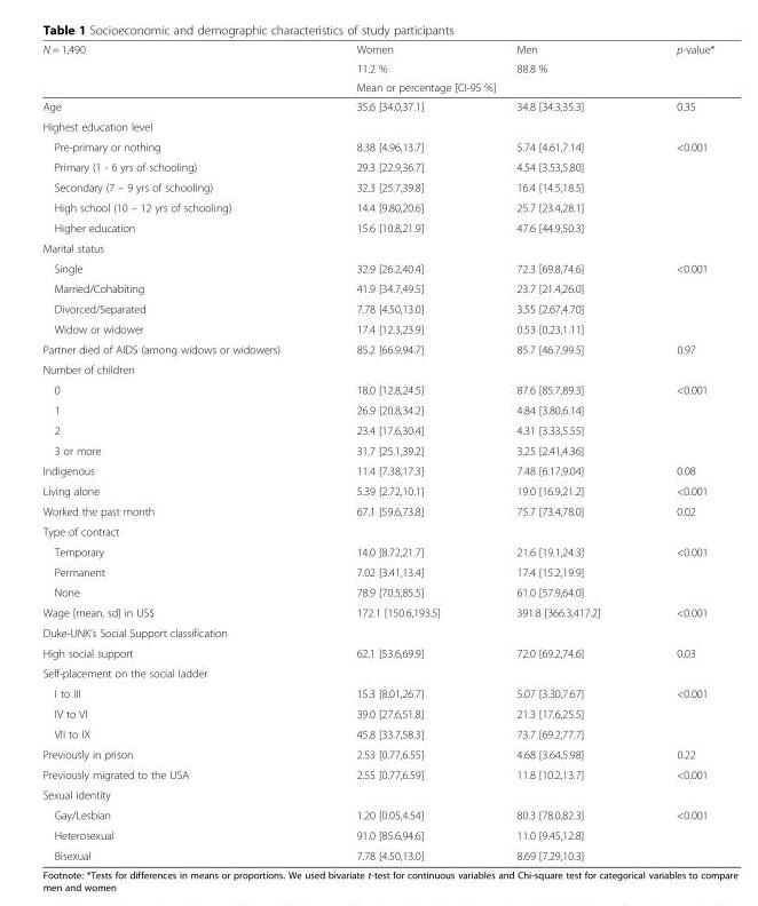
<table><thead><tr><td rowspan="3">N = 1,490</td><td rowspan="2">Women 11.2 %</td><td rowspan="2">Men 88.8 %</td><td rowspan="3">p-value*</td></tr><tr></tr><tr><td colspan="2">Mean or percentage [CI-95 %]</td></tr></thead><tbody><tr><td>Age</td><td>35.6 [34.0,37.1]</td><td>34.8 [34.3,35.3]</td><td>0.35</td></tr><tr><td colspan="4">Highest education level</td></tr><tr><td>Pre-primary or nothing</td><td>8.38 [4.96,13.7]</td><td>5.74 [4.61,7.14]</td><td>&lt;0.001</td></tr><tr><td>Primary (1 - 6 yrs of schooling)</td><td>29.3 [22.9,36.7]</td><td>4.54 [3.53,5.80]</td><td></td></tr><tr><td>Secondary (7 – 9 yrs of schooling)</td><td>32.3 [25.7,39.8]</td><td>16.4 [14.5,18.5]</td><td></td></tr><tr><td>High school (10 – 12 yrs of schooling)</td><td>14.4 [9.80,20.6]</td><td>25.7 [23.4,28.1]</td><td></td></tr><tr><td>Higher education</td><td>15.6 [10.8,21.9]</td><td>47.6 [44.9,50.3]</td><td></td></tr><tr><td colspan="4">Marital status</td></tr><tr><td>Single</td><td>32.9 [26.2,40.4]</td><td>72.3 [69.8,74.6]</td><td>&lt;0.001</td></tr><tr><td>Married/Cohabiting</td><td>41.9 [34.7,49.5]</td><td>23.7 [21.4,26.0]</td><td></td></tr><tr><td>Divorced/Separated</td><td>7.78 [4.50,13.0]</td><td>3.55 [2.67,4.70]</td><td></td></tr><tr><td>Widow or widower</td><td>17.4 [12.3,23.9]</td><td>0.53 [0.23,1.11]</td><td></td></tr><tr><td>Partner died of AIDS (among widows or widowers)</td><td>85.2 [66.9,94.7]</td><td>85.7 [46.7,99.5]</td><td>0.97</td></tr><tr><td colspan="4">Number of children</td></tr><tr><td>0</td><td>18.0 [12.8,24.5]</td><td>87.6 [85.7,89.3]</td><td>&lt;0.001</td></tr><tr><td>1</td><td>26.9 [20.8,34.2]</td><td>4.84 [3.80,6.14]</td><td></td></tr><tr><td>2</td><td>23.4 [17.6,30.4]</td><td>4.31 [3.33,5.55]</td><td></td></tr><tr><td>3 or more</td><td>31.7 [25.1,39.2]</td><td>3.25 [2.41,4.36]</td><td></td></tr><tr><td>Indigenous</td><td>11.4 [7.38,17.3]</td><td>7.48 [6.17,9.04]</td><td>0.08</td></tr><tr><td>Living alone</td><td>5.39 [2.72,10.1]</td><td>19.0 [16.9,21.2]</td><td>&lt;0.001</td></tr><tr><td>Worked the past month</td><td>67.1 [59.6,73.8]</td><td>75.7 [73.4,78.0]</td><td>0.02</td></tr><tr><td colspan="4">Type of contract</td></tr><tr><td>Temporary</td><td>14.0 [8.72,21.7]</td><td>21.6 [19.1,24.3]</td><td>&lt;0.001</td></tr><tr><td>Permanent</td><td>7.02 [3.41,13.4]</td><td>17.4 [15.2,19.9]</td><td></td></tr><tr><td>None</td><td>78.9 [70.5,85.5]</td><td>61.0 [57.9,64.0]</td><td></td></tr><tr><td>Wage [mean, sd] in US$</td><td>172.1 [150.6,193.5]</td><td>391.8 [366.3,417.2]</td><td>&lt;0.001</td></tr><tr><td colspan="4">Duke-UNK’s Social Support classification</td></tr><tr><td>High social support</td><td>62.1 [53.6,69.9]</td><td>72.0 [69.2,74.6]</td><td>0.03</td></tr><tr><td colspan="4">Self-placement on the social ladder</td></tr><tr><td>I to III</td><td>15.3 [8.01,26.7]</td><td>5.07 [3.30,7.67]</td><td>&lt;0.001</td></tr><tr><td>IV to VI</td><td>39.0 [27.6,51.8]</td><td>21.3 [17.6,25.5]</td><td></td></tr><tr><td>VII to IX</td><td>45.8 [33.7,58.3]</td><td>73.7 [69.2,77.7]</td><td></td></tr><tr><td>Previously in prison</td><td>2.53 [0.77,6.55]</td><td>4.68 [3.64,5.98]</td><td>0.22</td></tr><tr><td>Previously migrated to the USA</td><td>2.55 [0.77,6.59]</td><td>11.8 [10.2,13.7]</td><td>&lt;0.001</td></tr><tr><td colspan="4">Sexual identity</td></tr><tr><td>Gay/Lesbian</td><td>1.20 [0.05,4.54]</td><td>80.3 [78.0,82.3]</td><td>&lt;0.001</td></tr><tr><td>Heterosexual</td><td>91.0 [85.6,94.6]</td><td>11.0 [9.45,12.8]</td><td></td></tr><tr><td>Bisexual</td><td>7.78 [4.50,13.0]</td><td>8.69 [7.29,10.3]</td><td></td></tr></tbody></table>